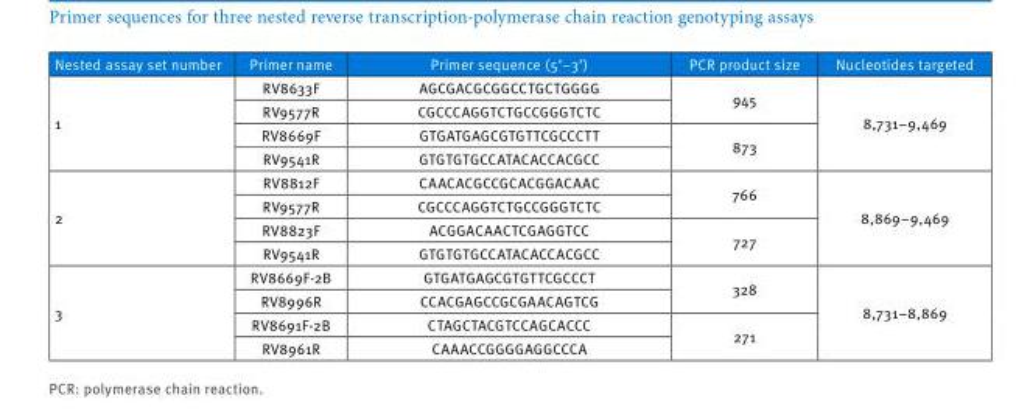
<table><thead><tr><td>Nested assay set number</td><td>Primer name</td><td>Primer sequence (5’–3’)</td><td>PCR product size</td><td>Nucleotides targeted</td></tr></thead><tbody><tr><td rowspan="4">1</td><td>RV8633F</td><td>AGCGACGCGGCCTGCTGGGG</td><td rowspan="2">945</td><td rowspan="4">8,731–9,469</td></tr><tr><td>RV9577R</td><td>CGCCCAGGTCTGCCGGGTCTC</td></tr><tr><td>RV8669F</td><td>GTGATGAGCGTGTTCGCCCTT</td><td rowspan="2">873</td></tr><tr><td>RV9541R</td><td>GTGTGTGCCATACACCACGCC</td></tr><tr><td rowspan="4">2</td><td>RV8812F</td><td>CAACACGCCGCACGGACAAC</td><td rowspan="2">766</td><td rowspan="4">8,869–9,469</td></tr><tr><td>RV9577R</td><td>CGCCCAGGTCTGCCGGGTCTC</td></tr><tr><td>RV8823F</td><td>ACGGACAACTCGAGGTCC</td><td rowspan="2">727</td></tr><tr><td>RV9541R</td><td>GTGTGTGCCATACACCACGCC</td></tr><tr><td rowspan="4">3</td><td>RV8669F-2B</td><td>GTGATGAGCGTGTTCGCCCT</td><td rowspan="2">328</td><td rowspan="4">8,731–8,869</td></tr><tr><td>RV8996R</td><td>CCACGAGCCGCGAACAGTCG</td></tr><tr><td>RV8691F-2B</td><td>CTAGCTACGTCCAGCACCC</td><td rowspan="2">271</td></tr><tr><td>RV8961R</td><td>CAAACCGGGGAGGCCCA</td></tr></tbody></table>